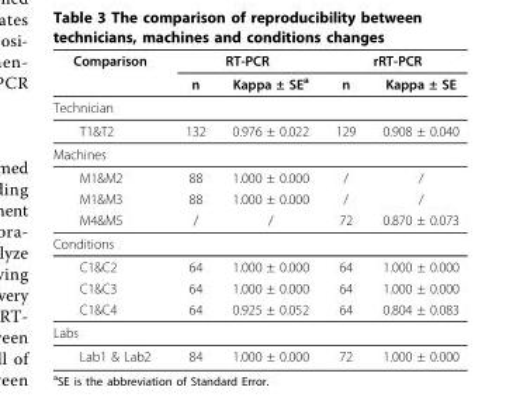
<table><thead><tr><td rowspan="2">Comparison</td><td colspan="2">RT-PCR</td><td colspan="2">rRT-PCR</td></tr><tr><td>n</td><td>Kappa ± SE<sup>a</sup></td><td>n</td><td>Kappa ± SE</td></tr></thead><tbody><tr><td colspan="5">Technician</td></tr><tr><td>T1&amp;T2</td><td>132</td><td>0.976 ± 0.022</td><td>129</td><td>0.908 ± 0.040</td></tr><tr><td colspan="5">Machines</td></tr><tr><td>M1&amp;M2</td><td>88</td><td>1.000 ± 0.000</td><td>/</td><td>/</td></tr><tr><td>M1&amp;M3</td><td>88</td><td>1.000 ± 0.000</td><td>/</td><td>/</td></tr><tr><td>M4&amp;M5</td><td>/</td><td>/</td><td>72</td><td>0.870 ± 0.073</td></tr><tr><td colspan="5">Conditions</td></tr><tr><td>C1&amp;C2</td><td>64</td><td>1.000 ± 0.000</td><td>64</td><td>1.000 ± 0.000</td></tr><tr><td>C1&amp;C3</td><td>64</td><td>1.000 ± 0.000</td><td>64</td><td>1.000 ± 0.000</td></tr><tr><td>C1&amp;C4</td><td>64</td><td>0.925 ± 0.052</td><td>64</td><td>0.804 ± 0.083</td></tr><tr><td colspan="5">Labs</td></tr><tr><td>Lab1 &amp; Lab2</td><td>84</td><td>1.000 ± 0.000</td><td>72</td><td>1.000 ± 0.000</td></tr></tbody></table>